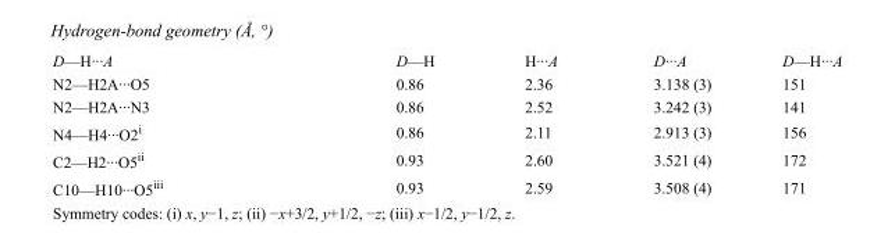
<table><tbody><tr><td>D—H···A</td><td>D—H</td><td>H···A</td><td>D···A</td><td>D—H···A</td></tr><tr><td>N2—H2A···O5</td><td>0.86</td><td>2.36</td><td>3.138 (3)</td><td>151</td></tr><tr><td>N2—H2A···N3</td><td>0.86</td><td>2.52</td><td>3.242 (3)</td><td>141</td></tr><tr><td>N4—H4···O2<sup>i</sup></td><td>0.86</td><td>2.11</td><td>2.913 (3)</td><td>156</td></tr><tr><td>C2—H2···O5<sup>ii</sup></td><td>0.93</td><td>2.60</td><td>3.521 (4)</td><td>172</td></tr><tr><td>C10—H10···O5<sup>iii</sup></td><td>0.93</td><td>2.59</td><td>3.508 (4)</td><td>171</td></tr></tbody></table>